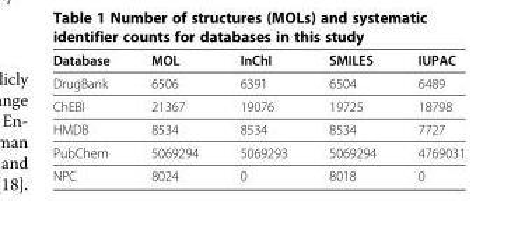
<table><thead><tr><td>Database</td><td>MOL</td><td>InChI</td><td>SMILES</td><td>IUPAC</td></tr></thead><tbody><tr><td>DrugBank</td><td>6506</td><td>6391</td><td>6504</td><td>6489</td></tr><tr><td>ChEBI</td><td>21367</td><td>19076</td><td>19725</td><td>18798</td></tr><tr><td>HMDB</td><td>8534</td><td>8534</td><td>8534</td><td>7727</td></tr><tr><td>PubChem</td><td>5069294</td><td>5069293</td><td>5069294</td><td>4769031</td></tr><tr><td>NPC</td><td>8024</td><td>0</td><td>8018</td><td>0</td></tr></tbody></table>